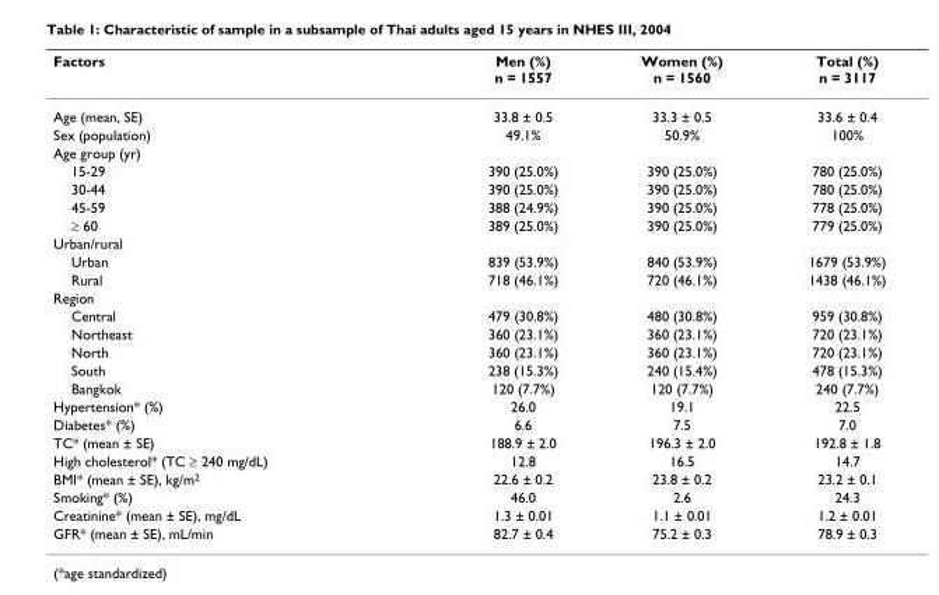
<table><thead><tr><td>Factors</td><td>Men (%) n = 1557</td><td>Women (%) n = 1560</td><td>Total (%) n = 3117</td></tr></thead><tbody><tr><td>Age (mean, SE)</td><td>33.8 ± 0.5</td><td>33.3 ± 0.5</td><td>33.6 ± 0.4</td></tr><tr><td>Sex (population)</td><td>49.1%</td><td>50.9%</td><td>100%</td></tr><tr><td colspan="4">Age group (yr)</td></tr><tr><td>15-29</td><td>390 (25.0%)</td><td>390 (25.0%)</td><td>780 (25.0%)</td></tr><tr><td>30-44</td><td>390 (25.0%)</td><td>390 (25.0%)</td><td>780 (25.0%)</td></tr><tr><td>45-59</td><td>388 (24.9%)</td><td>390 (25.0%)</td><td>778 (25.0%)</td></tr><tr><td>≥ 60</td><td>389 (25.0%)</td><td>390 (25.0%)</td><td>779 (25.0%)</td></tr><tr><td colspan="4">Urban/rural</td></tr><tr><td>Urban</td><td>839 (53.9%)</td><td>840 (53.9%)</td><td>1679 (53.9%)</td></tr><tr><td>Rural</td><td>718 (46.1%)</td><td>720 (46.1%)</td><td>1438 (46.1%)</td></tr><tr><td colspan="4">Region</td></tr><tr><td>Central</td><td>479 (30.8%)</td><td>480 (30.8%)</td><td>959 (30.8%)</td></tr><tr><td>Northeast</td><td>360 (23.1%)</td><td>360 (23.1%)</td><td>720 (23.1%)</td></tr><tr><td>North</td><td>360 (23.1%)</td><td>360 (23.1%)</td><td>720 (23.1%)</td></tr><tr><td>South</td><td>238 (15.3%)</td><td>240 (15.4%)</td><td>478 (15.3%)</td></tr><tr><td>Bangkok</td><td>120 (7.7%)</td><td>120 (7.7%)</td><td>240 (7.7%)</td></tr><tr><td>Hypertension* (%)</td><td>26.0</td><td>19.1</td><td>22.5</td></tr><tr><td>Diabetes* (%)</td><td>6.6</td><td>7.5</td><td>7.0</td></tr><tr><td>TC* (mean ± SE)</td><td>188.9 ± 2.0</td><td>196.3 ± 2.0</td><td>192.8 ± 1.8</td></tr><tr><td>High cholesterol* (TC ≥ 240 mg/dL)</td><td>12.8</td><td>16.5</td><td>14.7</td></tr><tr><td>BMI* (mean ± SE), kg/m<sup>2</sup></td><td>22.6 ± 0.2</td><td>23.8 ± 0.2</td><td>23.2 ± 0.1</td></tr><tr><td>Smoking* (%)</td><td>46.0</td><td>2.6</td><td>24.3</td></tr><tr><td>Creatinine* (mean ± SE), mg/dL</td><td>1.3 ± 0.01</td><td>1.1 ± 0.01</td><td>1.2 ± 0.01</td></tr><tr><td>GFR* (mean ± SE), mL/min</td><td>82.7 ± 0.4</td><td>75.2 ± 0.3</td><td>78.9 ± 0.3</td></tr></tbody></table>